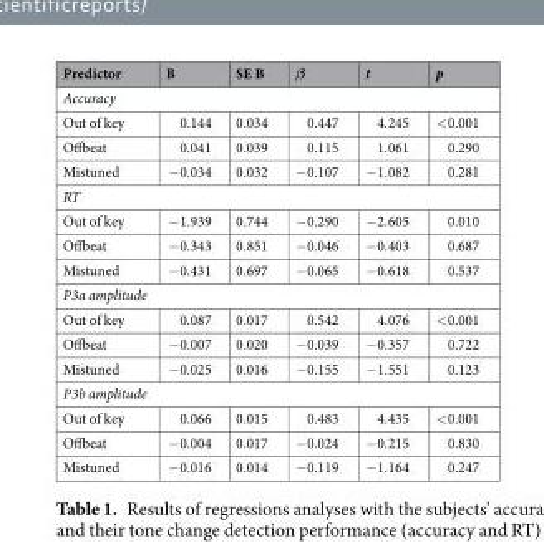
<table><thead><tr><td>Predictor</td><td>B</td><td>SE B</td><td>β</td><td>t</td><td>p</td></tr></thead><tbody><tr><td colspan="6">Accuracy</td></tr><tr><td>Out of key</td><td>0.144</td><td>0.034</td><td>0.447</td><td>4.245</td><td>&lt;0.001</td></tr><tr><td>Offbeat</td><td>0.041</td><td>0.039</td><td>0.115</td><td>1.061</td><td>0.290</td></tr><tr><td>Mistuned</td><td>−0.034</td><td>0.032</td><td>−0.107</td><td>−1.082</td><td>0.281</td></tr><tr><td colspan="6">RT</td></tr><tr><td>Out of key</td><td>−1.939</td><td>0.744</td><td>−0.290</td><td>−2.605</td><td>0.010</td></tr><tr><td>Offbeat</td><td>−0.343</td><td>0.851</td><td>−0.046</td><td>−0.403</td><td>0.687</td></tr><tr><td>Mistuned</td><td>−0.431</td><td>0.697</td><td>−0.065</td><td>−0.618</td><td>0.537</td></tr><tr><td colspan="6">P3a amplitude</td></tr><tr><td>Out of key</td><td>0.087</td><td>0.017</td><td>0.542</td><td>4.076</td><td>&lt;0.001</td></tr><tr><td>Offbeat</td><td>−0.007</td><td>0.020</td><td>−0.039</td><td>−0.357</td><td>0.722</td></tr><tr><td>Mistuned</td><td>−0.025</td><td>0.016</td><td>−0.155</td><td>−1.551</td><td>0.123</td></tr><tr><td colspan="6">P3b amplitude</td></tr><tr><td>Out of key</td><td>0.066</td><td>0.015</td><td>0.483</td><td>4.435</td><td>&lt;0.001</td></tr><tr><td>Offbeat</td><td>−0.004</td><td>0.017</td><td>−0.024</td><td>−0.215</td><td>0.830</td></tr><tr><td>Mistuned</td><td>−0.016</td><td>0.014</td><td>−0.119</td><td>−1.164</td><td>0.247</td></tr></tbody></table>